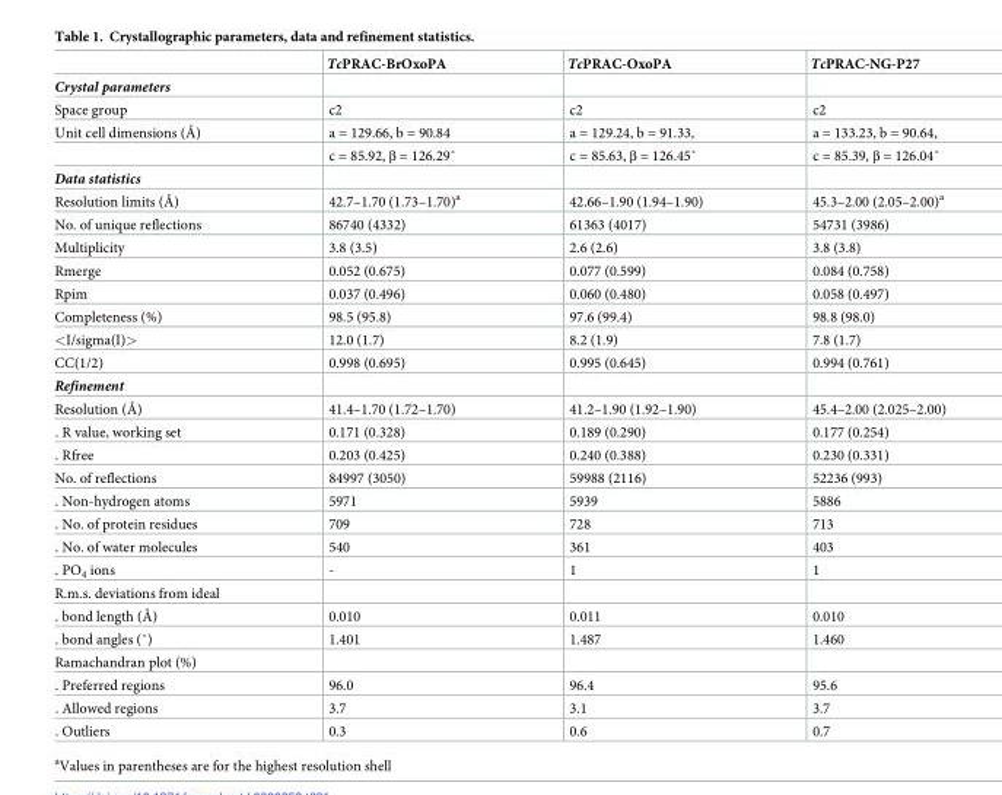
<table><thead><tr><td></td><td>TcPRAC-BrOxoPA</td><td>TcPRAC-OxoPA</td><td>TcPRAC-NG-P27</td></tr></thead><tbody><tr><td colspan="4">Crystal parameters</td></tr><tr><td>Space group</td><td>c2</td><td>c2</td><td>c2</td></tr><tr><td rowspan="2">Unit cell dimensions (Å)</td><td>a = 129.66, b = 90.84</td><td>a = 129.24, b = 91.33,</td><td>a = 133.23, b = 90.64,</td></tr><tr><td>c = 85.92, β = 126.29˚</td><td>c = 85.63, β = 126.45˚</td><td>c = 85.39, β = 126.04˚</td></tr><tr><td colspan="4">Data statistics</td></tr><tr><td>Resolution limits (Å)</td><td>42.7–1.70 (1.73–1.70)<sup>a</sup></td><td>42.66–1.90 (1.94–1.90)</td><td>45.3–2.00 (2.05–2.00)<sup>a</sup></td></tr><tr><td>No. of unique reflections</td><td>86740 (4332)</td><td>61363 (4017)</td><td>54731 (3986)</td></tr><tr><td>Multiplicity</td><td>3.8 (3.5)</td><td>2.6 (2.6)</td><td>3.8 (3.8)</td></tr><tr><td>Rmerge</td><td>0.052 (0.675)</td><td>0.077 (0.599)</td><td>0.084 (0.758)</td></tr><tr><td>Rpim</td><td>0.037 (0.496)</td><td>0.060 (0.480)</td><td>0.058 (0.497)</td></tr><tr><td>Completeness (%)</td><td>98.5 (95.8)</td><td>97.6 (99.4)</td><td>98.8 (98.0)</td></tr><tr><td>&lt;I/sigma(I)&gt;</td><td>12.0 (1.7)</td><td>8.2 (1.9)</td><td>7.8 (1.7)</td></tr><tr><td>CC(1/2)</td><td>0.998 (0.695)</td><td>0.995 (0.645)</td><td>0.994 (0.761)</td></tr><tr><td colspan="4">Refinement</td></tr><tr><td>Resolution (Å)</td><td>41.4–1.70 (1.72–1.70)</td><td>41.2–1.90 (1.92–1.90)</td><td>45.4–2.00 (2.025–2.00)</td></tr><tr><td>․ R value, working set</td><td>0.171 (0.328)</td><td>0.189 (0.290)</td><td>0.177 (0.254)</td></tr><tr><td>․ Rfree</td><td>0.203 (0.425)</td><td>0.240 (0.388)</td><td>0.230 (0.331)</td></tr><tr><td>No. of reflections</td><td>84997 (3050)</td><td>59988 (2116)</td><td>52236 (993)</td></tr><tr><td>․ Non-hydrogen atoms</td><td>5971</td><td>5939</td><td>5886</td></tr><tr><td>․ No. of protein residues</td><td>709</td><td>728</td><td>713</td></tr><tr><td>․ No. of water molecules</td><td>540</td><td>361</td><td>403</td></tr><tr><td>․ PO<sub>4</sub> ions</td><td>-</td><td>1</td><td>1</td></tr><tr><td colspan="4">R.m.s. deviations from ideal</td></tr><tr><td>․ bond length (Å)</td><td>0.010</td><td>0.011</td><td>0.010</td></tr><tr><td>․ bond angles (˚)</td><td>1.401</td><td>1.487</td><td>1.460</td></tr><tr><td colspan="4">Ramachandran plot (%)</td></tr><tr><td>․ Preferred regions</td><td>96.0</td><td>96.4</td><td>95.6</td></tr><tr><td>․ Allowed regions</td><td>3.7</td><td>3.1</td><td>3.7</td></tr><tr><td>․ Outliers</td><td>0.3</td><td>0.6</td><td>0.7</td></tr></tbody></table>